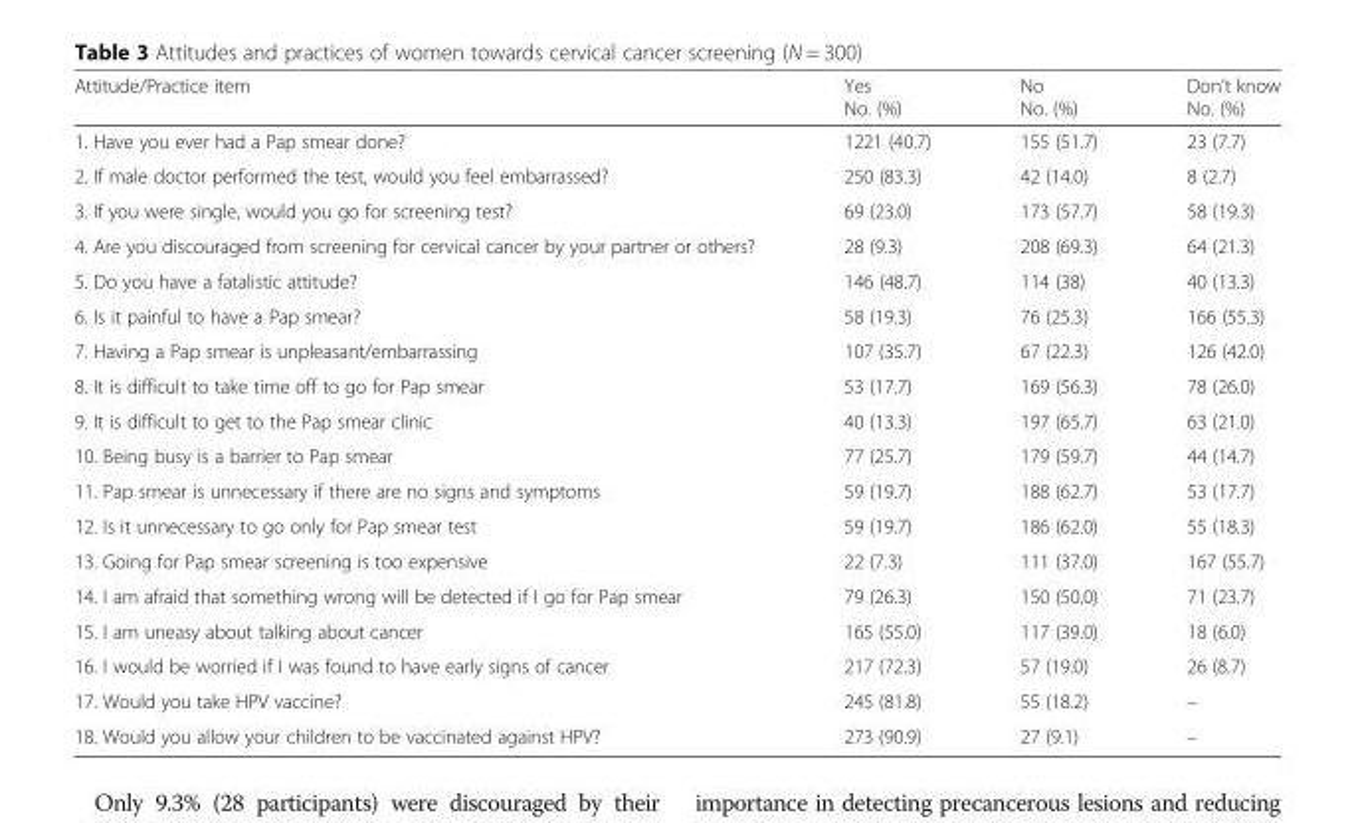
<table><thead><tr><td>Attitude/Practice item</td><td>Yes No. (%)</td><td>No No. (%)</td><td>Don’t know No. (%)</td></tr></thead><tbody><tr><td>1. Have you ever had a Pap smear done?</td><td>1221 (40.7)</td><td>155 (51.7)</td><td>23 (7.7)</td></tr><tr><td>2. If male doctor performed the test, would you feel embarrassed?</td><td>250 (83.3)</td><td>42 (14.0)</td><td>8 (2.7)</td></tr><tr><td>3. If you were single, would you go for screening test?</td><td>69 (23.0)</td><td>173 (57.7)</td><td>58 (19.3)</td></tr><tr><td>4. Are you discouraged from screening for cervical cancer by your partner or others?</td><td>28 (9.3)</td><td>208 (69.3)</td><td>64 (21.3)</td></tr><tr><td>5. Do you have a fatalistic attitude?</td><td>146 (48.7)</td><td>114 (38)</td><td>40 (13.3)</td></tr><tr><td>6. Is it painful to have a Pap smear?</td><td>58 (19.3)</td><td>76 (25.3)</td><td>166 (55.3)</td></tr><tr><td>7. Having a Pap smear is unpleasant/embarrassing</td><td>107 (35.7)</td><td>67 (22.3)</td><td>126 (42.0)</td></tr><tr><td>8. It is difficult to take time off to go for Pap smear</td><td>53 (17.7)</td><td>169 (56.3)</td><td>78 (26.0)</td></tr><tr><td>9. It is difficult to get to the Pap smear clinic</td><td>40 (13.3)</td><td>197 (65.7)</td><td>63 (21.0)</td></tr><tr><td>10. Being busy is a barrier to Pap smear</td><td>77 (25.7)</td><td>179 (59.7)</td><td>44 (14.7)</td></tr><tr><td>11. Pap smear is unnecessary if there are no signs and symptoms</td><td>59 (19.7)</td><td>188 (62.7)</td><td>53 (17.7)</td></tr><tr><td>12. Is it unnecessary to go only for Pap smear test</td><td>59 (19.7)</td><td>186 (62.0)</td><td>55 (18.3)</td></tr><tr><td>13. Going for Pap smear screening is too expensive</td><td>22 (7.3)</td><td>111 (37.0)</td><td>167 (55.7)</td></tr><tr><td>14. I am afraid that something wrong will be detected if I go for Pap smear</td><td>79 (26.3)</td><td>150 (50.0)</td><td>71 (23.7)</td></tr><tr><td>15. I am uneasy about talking about cancer</td><td>165 (55.0)</td><td>117 (39.0)</td><td>18 (6.0)</td></tr><tr><td>16. I would be worried if I was found to have early signs of cancer</td><td>217 (72.3)</td><td>57 (19.0)</td><td>26 (8.7)</td></tr><tr><td>17. Would you take HPV vaccine?</td><td>245 (81.8)</td><td>55 (18.2)</td><td>–</td></tr><tr><td>18. Would you allow your children to be vaccinated against HPV?</td><td>273 (90.9)</td><td>27 (9.1)</td><td>–</td></tr></tbody></table>